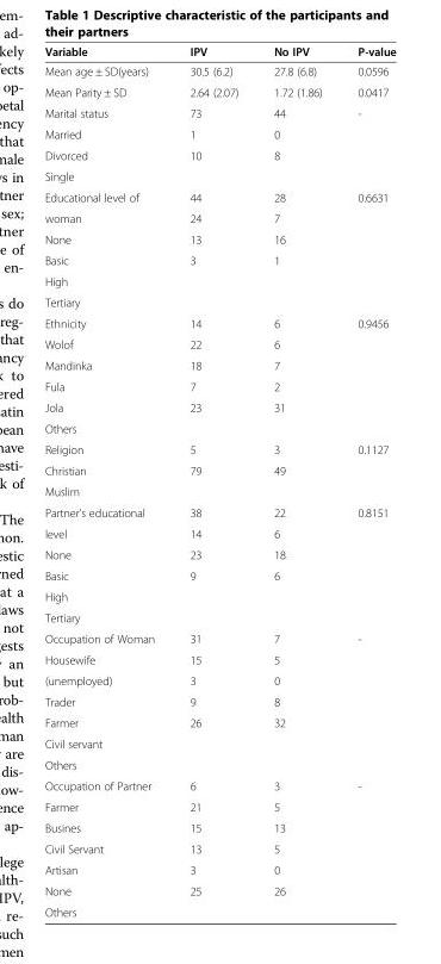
<table><thead><tr><td>Variable</td><td>IPV</td><td>No IPV</td><td>P-value</td></tr></thead><tbody><tr><td>Mean age ± SD(years)</td><td>30.5 (6.2)</td><td>27.8 (6.8)</td><td>0.0596</td></tr><tr><td>Mean Parity ± SD</td><td>2.64 (2.07)</td><td>1.72 (1.86)</td><td>0.0417</td></tr><tr><td>Marital status</td><td>73</td><td>44</td><td>-</td></tr><tr><td>Married</td><td>1</td><td>0</td><td></td></tr><tr><td>Divorced</td><td>10</td><td>8</td><td></td></tr><tr><td colspan="4">Single</td></tr><tr><td>Educational level of</td><td>44</td><td>28</td><td>0.6631</td></tr><tr><td>woman</td><td>24</td><td>7</td><td></td></tr><tr><td>None</td><td>13</td><td>16</td><td></td></tr><tr><td>Basic</td><td>3</td><td>1</td><td></td></tr><tr><td colspan="4">High</td></tr><tr><td colspan="4">Tertiary</td></tr><tr><td>Ethnicity</td><td>14</td><td>6</td><td>0.9456</td></tr><tr><td>Wolof</td><td>22</td><td>6</td><td></td></tr><tr><td>Mandinka</td><td>18</td><td>7</td><td></td></tr><tr><td>Fula</td><td>7</td><td>2</td><td></td></tr><tr><td>Jola</td><td>23</td><td>31</td><td></td></tr><tr><td colspan="4">Others</td></tr><tr><td>Religion</td><td>5</td><td>3</td><td>0.1127</td></tr><tr><td>Christian</td><td>79</td><td>49</td><td></td></tr><tr><td colspan="4">Muslim</td></tr><tr><td>Partner’s educational</td><td>38</td><td>22</td><td>0.8151</td></tr><tr><td>level</td><td>14</td><td>6</td><td></td></tr><tr><td>None</td><td>23</td><td>18</td><td></td></tr><tr><td>Basic</td><td>9</td><td>6</td><td></td></tr><tr><td colspan="4">High</td></tr><tr><td colspan="4">Tertiary</td></tr><tr><td>Occupation of Woman</td><td>31</td><td>7</td><td>-</td></tr><tr><td>Housewife</td><td>15</td><td>5</td><td></td></tr><tr><td>(unemployed)</td><td>3</td><td>0</td><td></td></tr><tr><td>Trader</td><td>9</td><td>8</td><td></td></tr><tr><td>Farmer</td><td>26</td><td>32</td><td></td></tr><tr><td colspan="4">Civil servant</td></tr><tr><td colspan="4">Others</td></tr><tr><td>Occupation of Partner</td><td>6</td><td>3</td><td>-</td></tr><tr><td>Farmer</td><td>21</td><td>5</td><td></td></tr><tr><td>Busines</td><td>15</td><td>13</td><td></td></tr><tr><td>Civil Servant</td><td>13</td><td>5</td><td></td></tr><tr><td>Artisan</td><td>3</td><td>0</td><td></td></tr><tr><td>None</td><td>25</td><td>26</td><td></td></tr><tr><td>Others</td><td></td><td></td><td></td></tr></tbody></table>